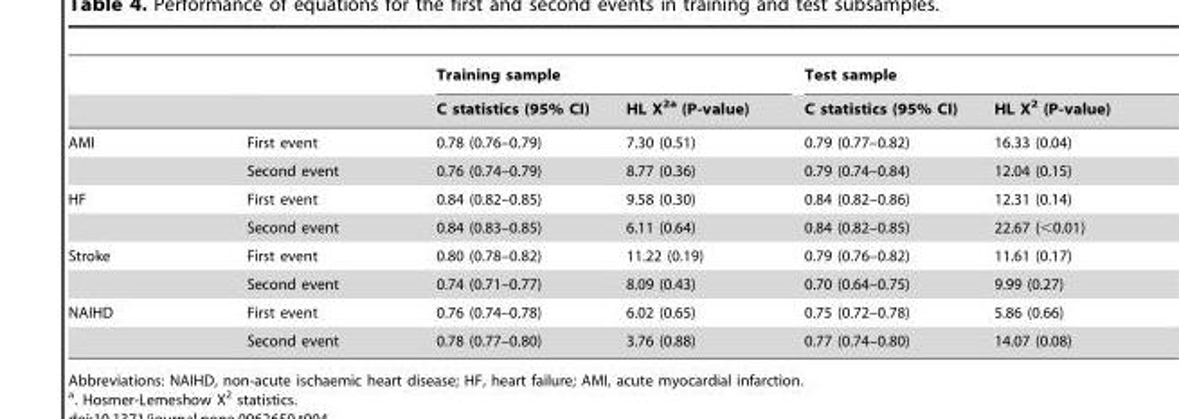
<table><thead><tr><td rowspan="2"></td><td rowspan="2"></td><td colspan="2">Training sample</td><td colspan="2">Test sample</td></tr><tr><td>C statistics (95% CI)</td><td>HL X<sup>2</sup>a (P-value)</td><td>C statistics (95% CI)</td><td>HL X<sup>2</sup> (P-value)</td></tr></thead><tbody><tr><td rowspan="2">AMI</td><td>First event</td><td>0.78 (0.76–0.79)</td><td>7.30 (0.51)</td><td>0.79 (0.77–0.82)</td><td>16.33 (0.04)</td></tr><tr><td>Second event</td><td>0.76 (0.74–0.79)</td><td>8.77 (0.36)</td><td>0.79 (0.74–0.84)</td><td>12.04 (0.15)</td></tr><tr><td rowspan="2">HF</td><td>First event</td><td>0.84 (0.82–0.85)</td><td>9.58 (0.30)</td><td>0.84 (0.82–0.86)</td><td>12.31 (0.14)</td></tr><tr><td>Second event</td><td>0.84 (0.83–0.85)</td><td>6.11 (0.64)</td><td>0.84 (0.82–0.85)</td><td>22.67 (&lt;0.01)</td></tr><tr><td rowspan="2">Stroke</td><td>First event</td><td>0.80 (0.78–0.82)</td><td>11.22 (0.19)</td><td>0.79 (0.76–0.82)</td><td>11.61 (0.17)</td></tr><tr><td>Second event</td><td>0.74 (0.71–0.77)</td><td>8.09 (0.43)</td><td>0.70 (0.64–0.75)</td><td>9.99 (0.27)</td></tr><tr><td rowspan="2">NAIHD</td><td>First event</td><td>0.76 (0.74–0.78)</td><td>6.02 (0.65)</td><td>0.75 (0.72–0.78)</td><td>5.86 (0.66)</td></tr><tr><td>Second event</td><td>0.78 (0.77–0.80)</td><td>3.76 (0.88)</td><td>0.77 (0.74–0.80)</td><td>14.07 (0.08)</td></tr></tbody></table>